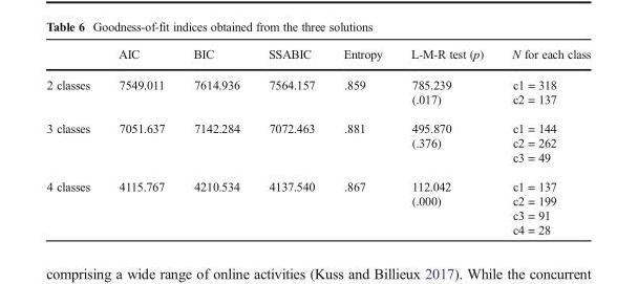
<table><thead><tr><td></td><td>AIC</td><td>BIC</td><td>SSABIC</td><td>Entropy</td><td>L-M-R test (p)</td><td>N for each class</td></tr></thead><tbody><tr><td>2 classes</td><td>7549.011</td><td>7614.936</td><td>7564.157</td><td>.859</td><td>785.239 (.017)</td><td>c1 = 318 c2 = 137</td></tr><tr><td>3 classes</td><td>7051.637</td><td>7142.284</td><td>7072.463</td><td>.881</td><td>495.870 (.376)</td><td>c1 = 144 c2 = 262 c3 = 49</td></tr><tr><td>4 classes</td><td>4115.767</td><td>4210.534</td><td>4137.540</td><td>.867</td><td>112.042 (.000)</td><td>c1 = 137 c2 = 199 c3 = 91 c4 = 28</td></tr></tbody></table>